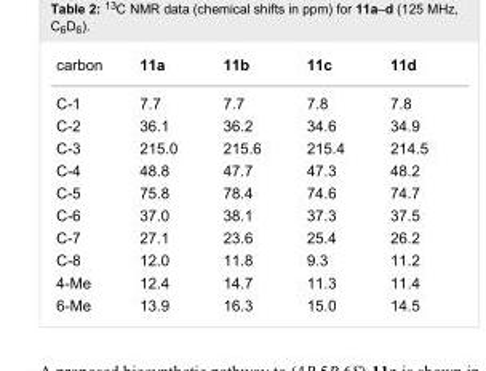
<table><tbody><tr><td>carbon</td><td>11a</td><td>11b</td><td>11c</td><td>11d</td></tr><tr><td>C-1</td><td>7.7</td><td>7.7</td><td>7.8</td><td>7.8</td></tr><tr><td>C-2</td><td>36.1</td><td>36.2</td><td>34.6</td><td>34.9</td></tr><tr><td>C-3</td><td>215.0</td><td>215.6</td><td>215.4</td><td>214.5</td></tr><tr><td>C-4</td><td>48.8</td><td>47.7</td><td>47.3</td><td>48.2</td></tr><tr><td>C-5</td><td>75.8</td><td>78.4</td><td>74.6</td><td>74.7</td></tr><tr><td>C-6</td><td>37.0</td><td>38.1</td><td>37.3</td><td>37.5</td></tr><tr><td>C-7</td><td>27.1</td><td>23.6</td><td>25.4</td><td>26.2</td></tr><tr><td>C-8</td><td>12.0</td><td>11.8</td><td>9.3</td><td>11.2</td></tr><tr><td>4-Me</td><td>12.4</td><td>14.7</td><td>11.3</td><td>11.4</td></tr><tr><td>6-Me</td><td>13.9</td><td>16.3</td><td>15.0</td><td>14.5</td></tr></tbody></table>